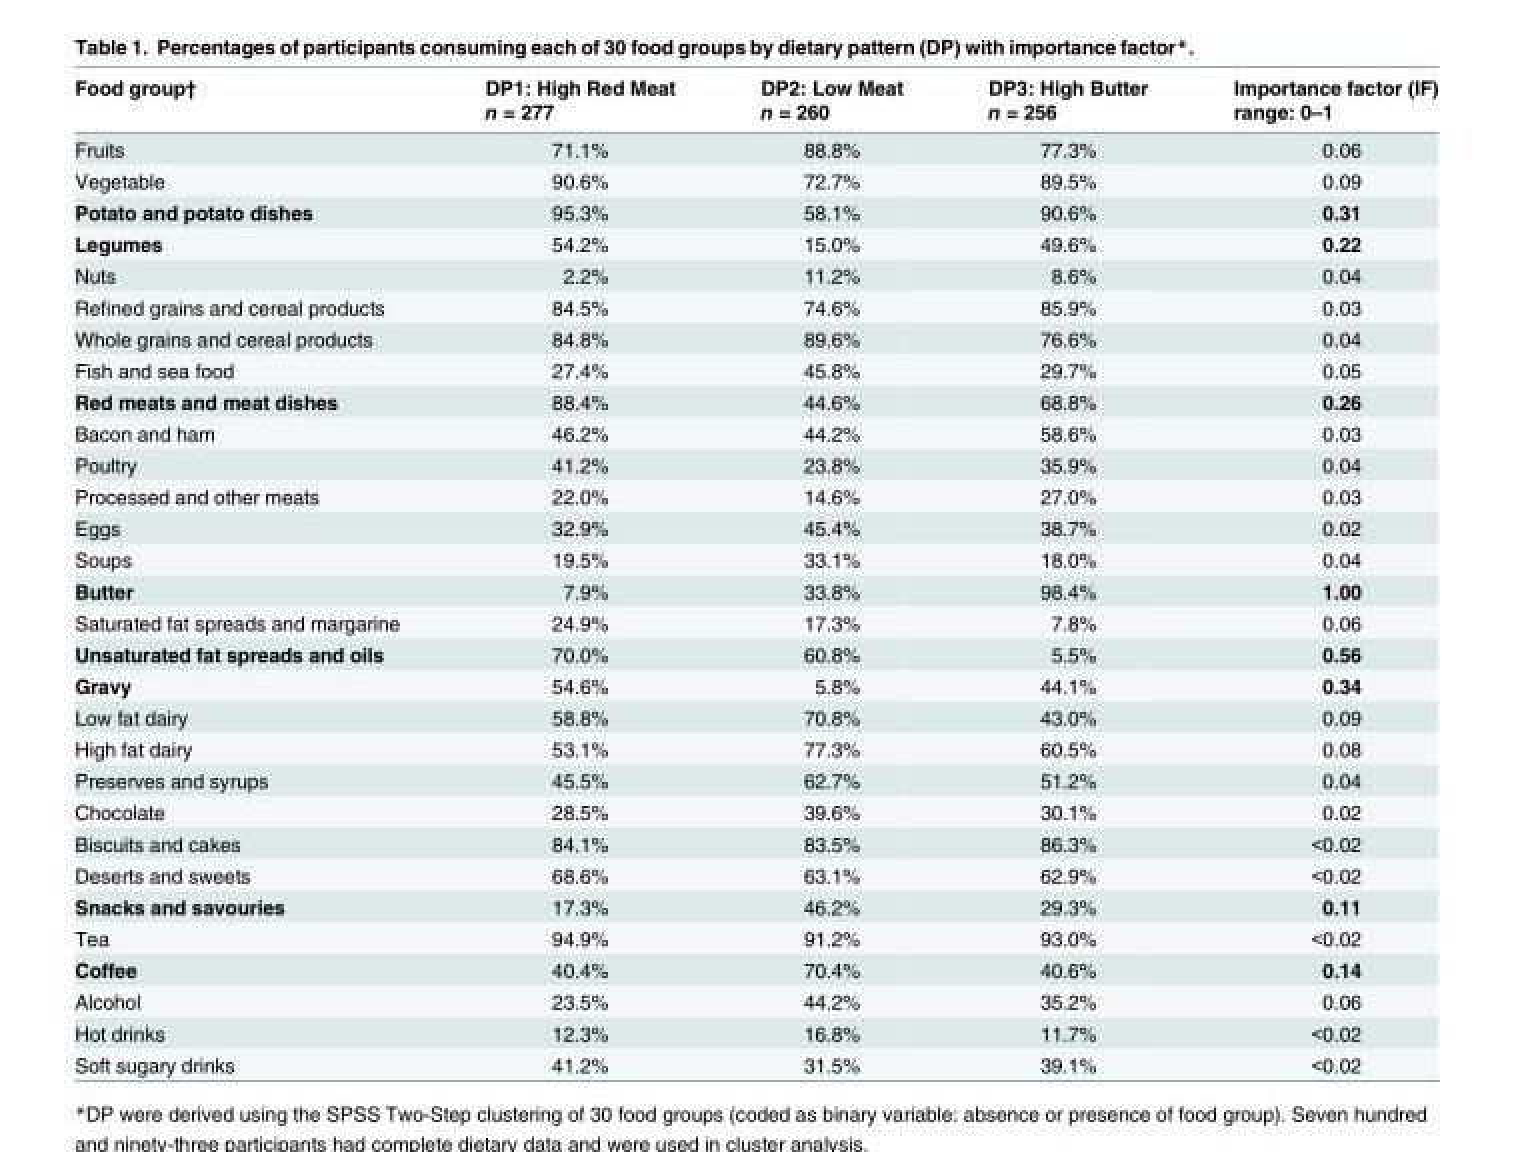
<table><thead><tr><td rowspan="2">Food group†</td><td rowspan="2">DP1: High Red Meat n = 277</td><td rowspan="2">DP2: Low Meat n = 260</td><td rowspan="2">DP3: High Butter n = 256</td><td rowspan="2">Importance factor (IF) range: 0–1</td></tr><tr></tr></thead><tbody><tr><td>Fruits</td><td>71.1%</td><td>88.8%</td><td>77.3%</td><td>0.06</td></tr><tr><td>Vegetable</td><td>90.6%</td><td>72.7%</td><td>89.5%</td><td>0.09</td></tr><tr><td>Potato and potato dishes</td><td>95.3%</td><td>58.1%</td><td>90.6%</td><td>0.31</td></tr><tr><td>Legumes</td><td>54.2%</td><td>15.0%</td><td>49.6%</td><td>0.22</td></tr><tr><td>Nuts</td><td>2.2%</td><td>11.2%</td><td>8.6%</td><td>0.04</td></tr><tr><td>Refined grains and cereal products</td><td>84.5%</td><td>74.6%</td><td>85.9%</td><td>0.03</td></tr><tr><td>Whole grains and cereal products</td><td>84.8%</td><td>89.6%</td><td>76.6%</td><td>0.04</td></tr><tr><td>Fish and sea food</td><td>27.4%</td><td>45.8%</td><td>29.7%</td><td>0.05</td></tr><tr><td>Red meats and meat dishes</td><td>88.4%</td><td>44.6%</td><td>68.8%</td><td>0.26</td></tr><tr><td>Bacon and ham</td><td>46.2%</td><td>44.2%</td><td>58.6%</td><td>0.03</td></tr><tr><td>Poultry</td><td>41.2%</td><td>23.8%</td><td>35.9%</td><td>0.04</td></tr><tr><td>Processed and other meats</td><td>22.0%</td><td>14.6%</td><td>27.0%</td><td>0.03</td></tr><tr><td>Eggs</td><td>32.9%</td><td>45.4%</td><td>38.7%</td><td>0.02</td></tr><tr><td>Soups</td><td>19.5%</td><td>33.1%</td><td>18.0%</td><td>0.04</td></tr><tr><td>Butter</td><td>7.9%</td><td>33.8%</td><td>98.4%</td><td>1.00</td></tr><tr><td>Saturated fat spreads and margarine</td><td>24.9%</td><td>17.3%</td><td>7.8%</td><td>0.06</td></tr><tr><td>Unsaturated fat spreads and oils</td><td>70.0%</td><td>60.8%</td><td>5.5%</td><td>0.56</td></tr><tr><td>Gravy</td><td>54.6%</td><td>5.8%</td><td>44.1%</td><td>0.34</td></tr><tr><td>Low fat dairy</td><td>58.8%</td><td>70.8%</td><td>43.0%</td><td>0.09</td></tr><tr><td>High fat dairy</td><td>53.1%</td><td>77.3%</td><td>60.5%</td><td>0.08</td></tr><tr><td>Preserves and syrups</td><td>45.5%</td><td>62.7%</td><td>51.2%</td><td>0.04</td></tr><tr><td>Chocolate</td><td>28.5%</td><td>39.6%</td><td>30.1%</td><td>0.02</td></tr><tr><td>Biscuits and cakes</td><td>84.1%</td><td>83.5%</td><td>86.3%</td><td>&lt;0.02</td></tr><tr><td>Deserts and sweets</td><td>68.6%</td><td>63.1%</td><td>62.9%</td><td>&lt;0.02</td></tr><tr><td>Snacks and savouries</td><td>17.3%</td><td>46.2%</td><td>29.3%</td><td>0.11</td></tr><tr><td>Tea</td><td>94.9%</td><td>91.2%</td><td>93.0%</td><td>&lt;0.02</td></tr><tr><td>Coffee</td><td>40.4%</td><td>70.4%</td><td>40.6%</td><td>0.14</td></tr><tr><td>Alcohol</td><td>23.5%</td><td>44.2%</td><td>35.2%</td><td>0.06</td></tr><tr><td>Hot drinks</td><td>12.3%</td><td>16.8%</td><td>11.7%</td><td>&lt;0.02</td></tr><tr><td>Soft sugary drinks</td><td>41.2%</td><td>31.5%</td><td>39.1%</td><td>&lt;0.02</td></tr></tbody></table>